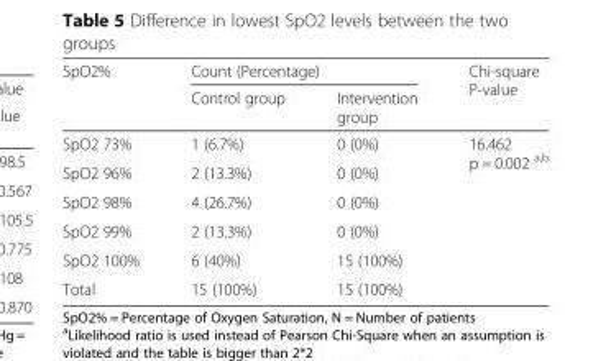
<table><thead><tr><td rowspan="2">SpO2%</td><td colspan="2">Count (Percentage)</td><td rowspan="2">Chi-square P-value</td></tr><tr><td>Control group</td><td>Intervention group</td></tr></thead><tbody><tr><td>SpO2 73%</td><td>1 (6.7%)</td><td>0 (0%)</td><td rowspan="6">16.462 p = 0.002 <sup>a,b</sup></td></tr><tr><td>SpO2 96%</td><td>2 (13.3%)</td><td>0 (0%)</td></tr><tr><td>SpO2 98%</td><td>4 (26.7%)</td><td>0 (0%)</td></tr><tr><td>SpO2 99%</td><td>2 (13.3%)</td><td>0 (0%)</td></tr><tr><td>SpO2 100%</td><td>6 (40%)</td><td>15 (100%)</td></tr><tr><td>Total</td><td>15 (100%)</td><td>15 (100%)</td></tr></tbody></table>